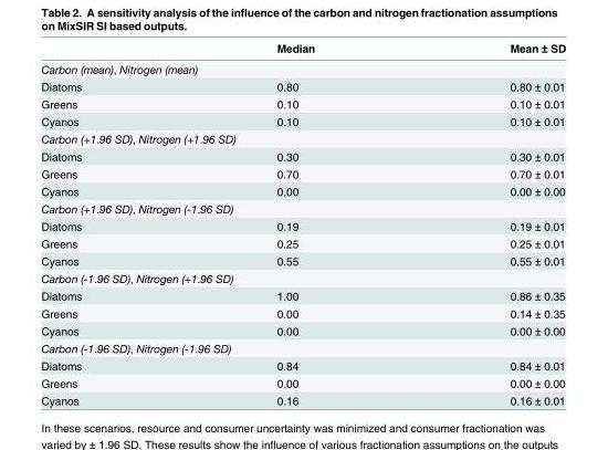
<table><thead><tr><td></td><td>Median</td><td>Mean ± SD</td></tr></thead><tbody><tr><td colspan="3">Carbon (mean), Nitrogen (mean)</td></tr><tr><td>Diatoms</td><td>0.80</td><td>0.80 ± 0.01</td></tr><tr><td>Greens</td><td>0.10</td><td>0.10 ± 0.01</td></tr><tr><td>Cyanos</td><td>0.10</td><td>0.10 ± 0.01</td></tr><tr><td colspan="3">Carbon (+1.96 SD), Nitrogen (+1.96 SD)</td></tr><tr><td>Diatoms</td><td>0.30</td><td>0.30 ± 0.01</td></tr><tr><td>Greens</td><td>0.70</td><td>0.70 ± 0.01</td></tr><tr><td>Cyanos</td><td>0.00</td><td>0.00 ± 0.00</td></tr><tr><td colspan="3">Carbon (+1.96 SD), Nitrogen (-1.96 SD)</td></tr><tr><td>Diatoms</td><td>0.19</td><td>0.19 ± 0.01</td></tr><tr><td>Greens</td><td>0.25</td><td>0.25 ± 0.01</td></tr><tr><td>Cyanos</td><td>0.55</td><td>0.55 ± 0.01</td></tr><tr><td colspan="3">Carbon (-1.96 SD), Nitrogen (+1.96 SD)</td></tr><tr><td>Diatoms</td><td>1.00</td><td>0.86 ± 0.35</td></tr><tr><td>Greens</td><td>0.00</td><td>0.14 ± 0.35</td></tr><tr><td>Cyanos</td><td>0.00</td><td>0.00 ± 0.00</td></tr><tr><td colspan="3">Carbon (-1.96 SD), Nitrogen (-1.96 SD)</td></tr><tr><td>Diatoms</td><td>0.84</td><td>0.84 ± 0.01</td></tr><tr><td>Greens</td><td>0.00</td><td>0.00 ± 0.00</td></tr><tr><td>Cyanos</td><td>0.16</td><td>0.16 ± 0.01</td></tr></tbody></table>